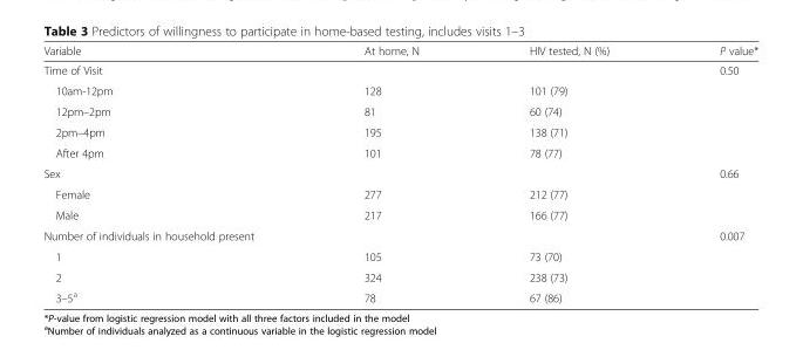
<table><thead><tr><td>Variable</td><td>At home, N</td><td>HIV tested, N (%)</td><td>P value*</td></tr></thead><tbody><tr><td>Time of Visit</td><td></td><td></td><td>0.50</td></tr><tr><td>10am-12pm</td><td>128</td><td>101 (79)</td><td></td></tr><tr><td>12pm–2pm</td><td>81</td><td>60 (74)</td><td></td></tr><tr><td>2pm–4pm</td><td>195</td><td>138 (71)</td><td></td></tr><tr><td>After 4pm</td><td>101</td><td>78 (77)</td><td></td></tr><tr><td>Sex</td><td></td><td></td><td>0.66</td></tr><tr><td>Female</td><td>277</td><td>212 (77)</td><td></td></tr><tr><td>Male</td><td>217</td><td>166 (77)</td><td></td></tr><tr><td>Number of individuals in household present</td><td></td><td></td><td>0.007</td></tr><tr><td>1</td><td>105</td><td>73 (70)</td><td></td></tr><tr><td>2</td><td>324</td><td>238 (73)</td><td></td></tr><tr><td>3–5<sup>a</sup></td><td>78</td><td>67 (86)</td><td></td></tr></tbody></table>